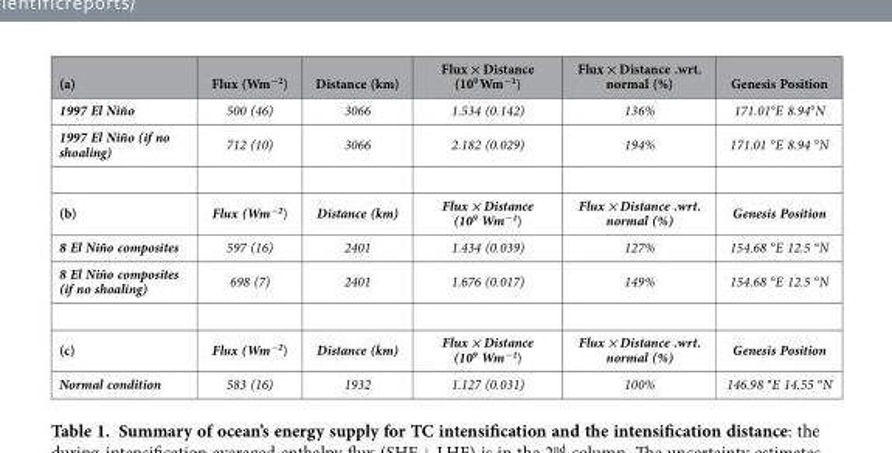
<table><thead><tr><td>(a)</td><td>Flux (Wm<sup>−2</sup>)</td><td>Distance (km)</td><td>Flux × Distance (10<sup>9</sup> Wm<sup>−1</sup>)</td><td>Flux × Distance .wrt. normal (%)</td><td>Genesis Position</td></tr></thead><tbody><tr><td>1997 El Niño</td><td>500 (46)</td><td>3066</td><td>1.534 (0.142)</td><td>136%</td><td>171.01°E 8.94°N</td></tr><tr><td>1997 El Niño (if no shoaling)</td><td>712 (10)</td><td>3066</td><td>2.182 (0.029)</td><td>194%</td><td>171.01 °E 8.94 °N</td></tr><tr><td>(b)</td><td>Flux (Wm<sup>−2</sup>)</td><td>Distance (km)</td><td>Flux × Distance (10<sup>9</sup> Wm<sup>−1</sup>)</td><td>Flux × Distance .wrt. normal (%)</td><td>Genesis Position</td></tr><tr><td>8 El Niño composites</td><td>597 (16)</td><td>2401</td><td>1.434 (0.039)</td><td>127%</td><td>154.68 °E 12.5 °N</td></tr><tr><td>8 El Niño composites (if no shoaling)</td><td>698 (7)</td><td>2401</td><td>1.676 (0.017)</td><td>149%</td><td>154.68 °E 12.5 °N</td></tr><tr><td>(c)</td><td>Flux (Wm<sup>−2</sup>)</td><td>Distance (km)</td><td>Flux × Distance (10<sup>9</sup> Wm<sup>−1</sup>)</td><td>Flux × Distance .wrt. normal (%)</td><td>Genesis Position</td></tr><tr><td>Normal condition</td><td>583 (16)</td><td>1932</td><td>1.127 (0.031)</td><td>100%</td><td>146.98 °E 14.55 °N</td></tr></tbody></table>